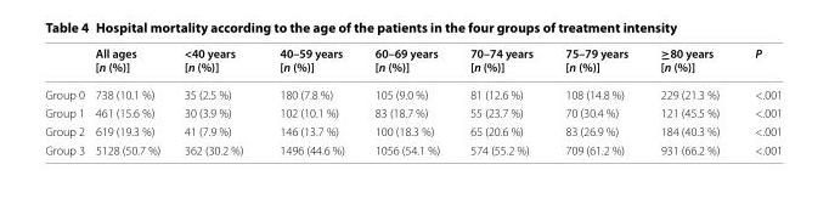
<table><thead><tr><td></td><td>All ages [n (%)]</td><td>&lt;40 years [n (%)]</td><td>40–59 years [n (%)]</td><td>60–69 years [n (%)]</td><td>70–74 years [n (%)]</td><td>75–79 years [n (%)]</td><td>≥80 years [n (%)]</td><td>P</td></tr></thead><tbody><tr><td>Group 0</td><td>738 (10.1 %)</td><td>35 (2.5 %)</td><td>180 (7.8 %)</td><td>105 (9.0 %)</td><td>81 (12.6 %)</td><td>108 (14.8 %)</td><td>229 (21.3 %)</td><td>&lt;.001</td></tr><tr><td>Group 1</td><td>461 (15.6 %)</td><td>30 (3.9 %)</td><td>102 (10.1 %)</td><td>83 (18.7 %)</td><td>55 (23.7 %)</td><td>70 (30.4 %)</td><td>121 (45.5 %)</td><td>&lt;.001</td></tr><tr><td>Group 2</td><td>619 (19.3 %)</td><td>41 (7.9 %)</td><td>146 (13.7 %)</td><td>100 (18.3 %)</td><td>65 (20.6 %)</td><td>83 (26.9 %)</td><td>184 (40.3 %)</td><td>&lt;.001</td></tr><tr><td>Group 3</td><td>5128 (50.7 %)</td><td>362 (30.2 %)</td><td>1496 (44.6 %)</td><td>1056 (54.1 %)</td><td>574 (55.2 %)</td><td>709 (61.2 %)</td><td>931 (66.2 %)</td><td>&lt;.001</td></tr></tbody></table>